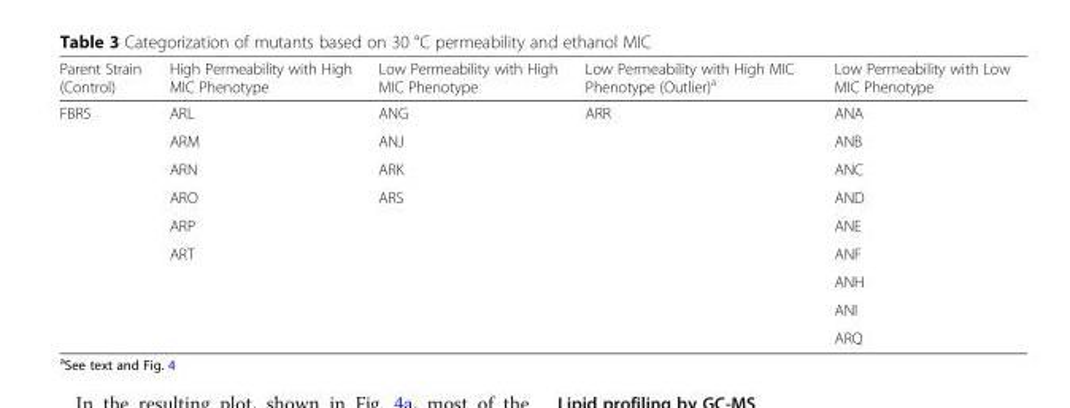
<table><thead><tr><td>Parent Strain (Control)</td><td>High Permeability with High MIC Phenotype</td><td>Low Permeability with High MIC Phenotype</td><td>Low Permeability with High MIC Phenotype (Outlier)<sup>a</sup></td><td>Low Permeability with Low MIC Phenotype</td></tr></thead><tbody><tr><td rowspan="9">FBR5</td><td>ARL</td><td>ANG</td><td>ARR</td><td>ANA</td></tr><tr><td>ARM</td><td>ANJ</td><td></td><td>ANB</td></tr><tr><td>ARN</td><td>ARK</td><td></td><td>ANC</td></tr><tr><td>ARO</td><td>ARS</td><td></td><td>AND</td></tr><tr><td>ARP</td><td></td><td></td><td>ANE</td></tr><tr><td>ART</td><td></td><td></td><td>ANF</td></tr><tr><td></td><td></td><td></td><td>ANH</td></tr><tr><td></td><td></td><td></td><td>ANI</td></tr><tr><td></td><td></td><td></td><td>ARQ</td></tr></tbody></table>